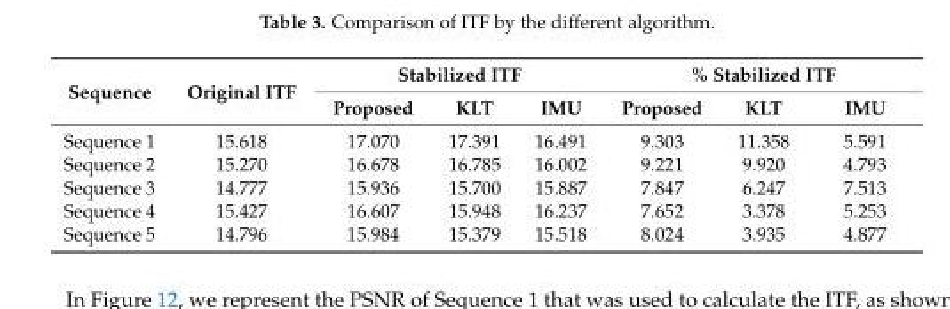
<table><thead><tr><td rowspan="2">Sequence</td><td rowspan="2">Original ITF</td><td colspan="3">Stabilized ITF</td><td colspan="3">% Stabilized ITF</td></tr><tr><td>Proposed</td><td>KLT</td><td>IMU</td><td>Proposed</td><td>KLT</td><td>IMU</td></tr></thead><tbody><tr><td>Sequence 1</td><td>15.618</td><td>17.070</td><td>17.391</td><td>16.491</td><td>9.303</td><td>11.358</td><td>5.591</td></tr><tr><td>Sequence 2</td><td>15.270</td><td>16.678</td><td>16.785</td><td>16.002</td><td>9.221</td><td>9.920</td><td>4.793</td></tr><tr><td>Sequence 3</td><td>14.777</td><td>15.936</td><td>15.700</td><td>15.887</td><td>7.847</td><td>6.247</td><td>7.513</td></tr><tr><td>Sequence 4</td><td>15.427</td><td>16.607</td><td>15.948</td><td>16.237</td><td>7.652</td><td>3.378</td><td>5.253</td></tr><tr><td>Sequence 5</td><td>14.796</td><td>15.984</td><td>15.379</td><td>15.518</td><td>8.024</td><td>3.935</td><td>4.877</td></tr></tbody></table>